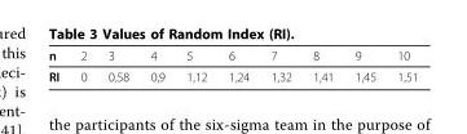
<table><thead><tr><td>n</td><td>2</td><td>3</td><td>4</td><td>5</td><td>6</td><td>7</td><td>8</td><td>9</td><td>10</td></tr></thead><tbody><tr><td>RI</td><td>0</td><td>0,58</td><td>0,9</td><td>1,12</td><td>1,24</td><td>1,32</td><td>1,41</td><td>1,45</td><td>1,51</td></tr></tbody></table>